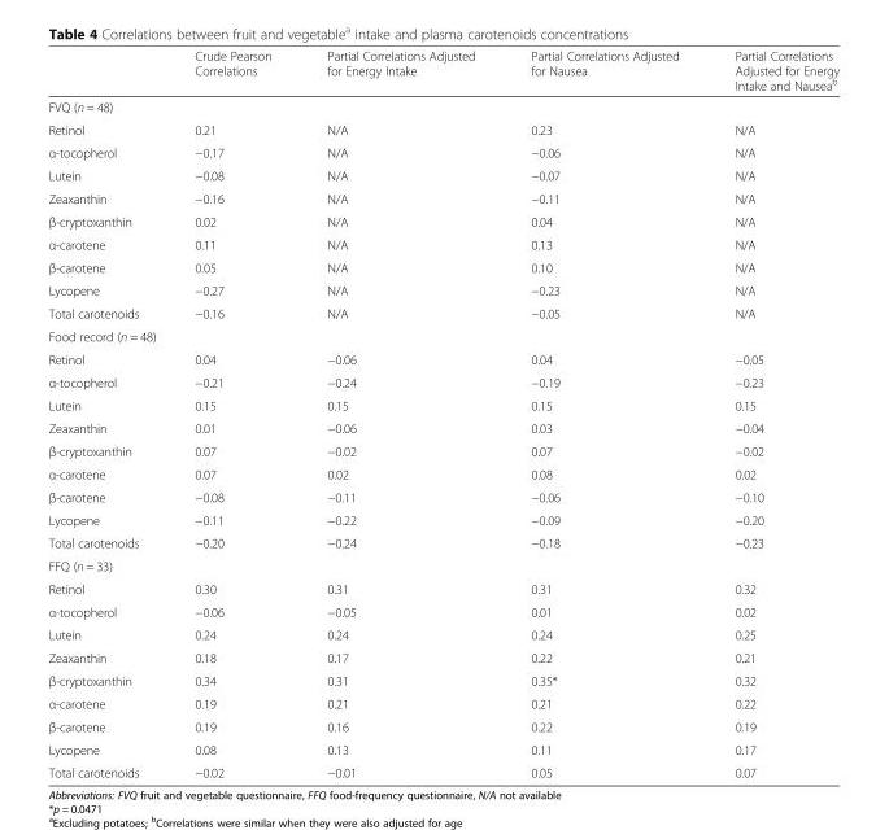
<table><thead><tr><td></td><td>Crude Pearson Correlations</td><td>Partial Correlations Adjusted for Energy Intake</td><td>Partial Correlations Adjusted for Nausea</td><td>Partial Correlations Adjusted for Energy Intake and Nausea<sup>b</sup></td></tr></thead><tbody><tr><td colspan="5">FVQ (n = 48)</td></tr><tr><td>Retinol</td><td>0.21</td><td>N/A</td><td>0.23</td><td>N/A</td></tr><tr><td>α-tocopherol</td><td>−0.17</td><td>N/A</td><td>−0.06</td><td>N/A</td></tr><tr><td>Lutein</td><td>−0.08</td><td>N/A</td><td>−0.07</td><td>N/A</td></tr><tr><td>Zeaxanthin</td><td>−0.16</td><td>N/A</td><td>−0.11</td><td>N/A</td></tr><tr><td>β-cryptoxanthin</td><td>0.02</td><td>N/A</td><td>0.04</td><td>N/A</td></tr><tr><td>α-carotene</td><td>0.11</td><td>N/A</td><td>0.13</td><td>N/A</td></tr><tr><td>β-carotene</td><td>0.05</td><td>N/A</td><td>0.10</td><td>N/A</td></tr><tr><td>Lycopene</td><td>−0.27</td><td>N/A</td><td>−0.23</td><td>N/A</td></tr><tr><td>Total carotenoids</td><td>−0.16</td><td>N/A</td><td>−0.05</td><td>N/A</td></tr><tr><td colspan="5">Food record (n = 48)</td></tr><tr><td>Retinol</td><td>0.04</td><td>−0.06</td><td>0.04</td><td>−0.05</td></tr><tr><td>α-tocopherol</td><td>−0.21</td><td>−0.24</td><td>−0.19</td><td>−0.23</td></tr><tr><td>Lutein</td><td>0.15</td><td>0.15</td><td>0.15</td><td>0.15</td></tr><tr><td>Zeaxanthin</td><td>0.01</td><td>−0.06</td><td>0.03</td><td>−0.04</td></tr><tr><td>β-cryptoxanthin</td><td>0.07</td><td>−0.02</td><td>0.07</td><td>−0.02</td></tr><tr><td>α-carotene</td><td>0.07</td><td>0.02</td><td>0.08</td><td>0.02</td></tr><tr><td>β-carotene</td><td>−0.08</td><td>−0.11</td><td>−0.06</td><td>−0.10</td></tr><tr><td>Lycopene</td><td>−0.11</td><td>−0.22</td><td>−0.09</td><td>−0.20</td></tr><tr><td>Total carotenoids</td><td>−0.20</td><td>−0.24</td><td>−0.18</td><td>−0.23</td></tr><tr><td colspan="5">FFQ (n = 33)</td></tr><tr><td>Retinol</td><td>0.30</td><td>0.31</td><td>0.31</td><td>0.32</td></tr><tr><td>α-tocopherol</td><td>−0.06</td><td>−0.05</td><td>0.01</td><td>0.02</td></tr><tr><td>Lutein</td><td>0.24</td><td>0.24</td><td>0.24</td><td>0.25</td></tr><tr><td>Zeaxanthin</td><td>0.18</td><td>0.17</td><td>0.22</td><td>0.21</td></tr><tr><td>β-cryptoxanthin</td><td>0.34</td><td>0.31</td><td>0.35*</td><td>0.32</td></tr><tr><td>α-carotene</td><td>0.19</td><td>0.21</td><td>0.21</td><td>0.22</td></tr><tr><td>β-carotene</td><td>0.19</td><td>0.16</td><td>0.22</td><td>0.19</td></tr><tr><td>Lycopene</td><td>0.08</td><td>0.13</td><td>0.11</td><td>0.17</td></tr><tr><td>Total carotenoids</td><td>−0.02</td><td>−0.01</td><td>0.05</td><td>0.07</td></tr></tbody></table>